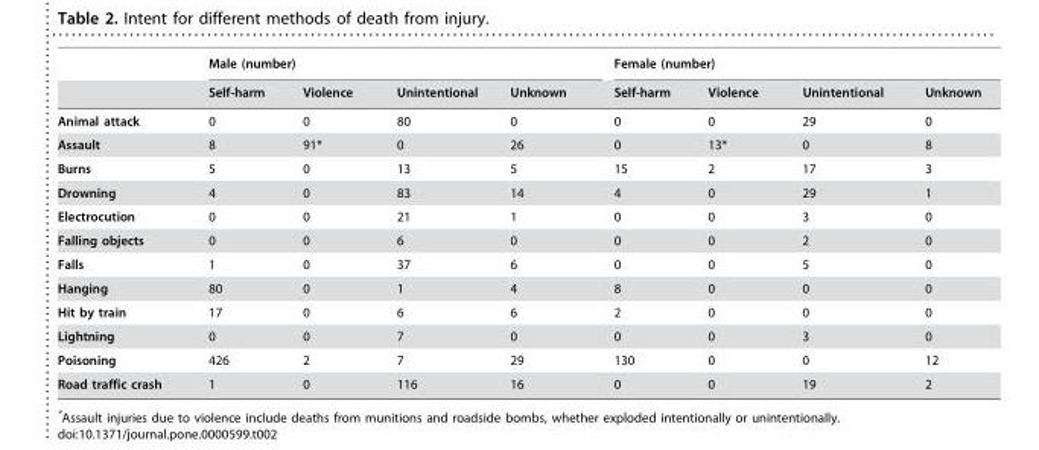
<table><thead><tr><td rowspan="2"></td><td colspan="4">Male (number)</td><td colspan="4">Female (number)</td></tr><tr><td>Self-harm</td><td>Violence</td><td>Unintentional</td><td>Unknown</td><td>Self-harm</td><td>Violence</td><td>Unintentional</td><td>Unknown</td></tr></thead><tbody><tr><td>Animal attack</td><td>0</td><td>0</td><td>80</td><td>0</td><td>0</td><td>0</td><td>29</td><td>0</td></tr><tr><td>Assault</td><td>8</td><td>91*</td><td>0</td><td>26</td><td>0</td><td>13*</td><td>0</td><td>8</td></tr><tr><td>Burns</td><td>5</td><td>0</td><td>13</td><td>5</td><td>15</td><td>2</td><td>17</td><td>3</td></tr><tr><td>Drowning</td><td>4</td><td>0</td><td>83</td><td>14</td><td>4</td><td>0</td><td>29</td><td>1</td></tr><tr><td>Electrocution</td><td>0</td><td>0</td><td>21</td><td>1</td><td>0</td><td>0</td><td>3</td><td>0</td></tr><tr><td>Falling objects</td><td>0</td><td>0</td><td>6</td><td>0</td><td>0</td><td>0</td><td>2</td><td>0</td></tr><tr><td>Falls</td><td>1</td><td>0</td><td>37</td><td>6</td><td>0</td><td>0</td><td>5</td><td>0</td></tr><tr><td>Hanging</td><td>80</td><td>0</td><td>1</td><td>4</td><td>8</td><td>0</td><td>0</td><td>0</td></tr><tr><td>Hit by train</td><td>17</td><td>0</td><td>6</td><td>6</td><td>2</td><td>0</td><td>0</td><td>0</td></tr><tr><td>Lightning</td><td>0</td><td>0</td><td>7</td><td>0</td><td>0</td><td>0</td><td>3</td><td>0</td></tr><tr><td>Poisoning</td><td>426</td><td>2</td><td>7</td><td>29</td><td>130</td><td>0</td><td>0</td><td>12</td></tr><tr><td>Road traffic crash</td><td>1</td><td>0</td><td>116</td><td>16</td><td>0</td><td>0</td><td>19</td><td>2</td></tr></tbody></table>